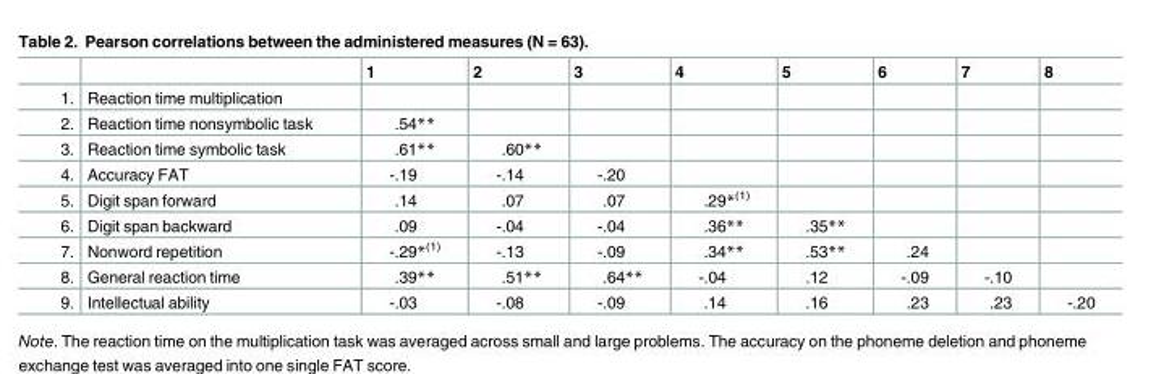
<table><thead><tr><td></td><td></td><td>1</td><td>2</td><td>3</td><td>4</td><td>5</td><td>6</td><td>7</td><td>8</td></tr></thead><tbody><tr><td>1.</td><td>Reaction time multiplication</td><td></td><td></td><td></td><td></td><td></td><td></td><td></td><td></td></tr><tr><td>2.</td><td>Reaction time nonsymbolic task</td><td>.54**</td><td></td><td></td><td></td><td></td><td></td><td></td><td></td></tr><tr><td>3.</td><td>Reaction time symbolic task</td><td>.61**</td><td>.60**</td><td></td><td></td><td></td><td></td><td></td><td></td></tr><tr><td>4.</td><td>Accuracy FAT</td><td>-.19</td><td>-.14</td><td>-.20</td><td></td><td></td><td></td><td></td><td></td></tr><tr><td>5.</td><td>Digit span forward</td><td>.14</td><td>.07</td><td>.07</td><td>.29*<sup>(1)</sup></td><td></td><td></td><td></td><td></td></tr><tr><td>6.</td><td>Digit span backward</td><td>.09</td><td>-.04</td><td>-.04</td><td>.36**</td><td>.35**</td><td></td><td></td><td></td></tr><tr><td>7.</td><td>Nonword repetition</td><td>-.29*<sup>(1)</sup></td><td>-.13</td><td>-.09</td><td>.34**</td><td>.53**</td><td>.24</td><td></td><td></td></tr><tr><td>8.</td><td>General reaction time</td><td>.39**</td><td>.51**</td><td>.64**</td><td>-.04</td><td>.12</td><td>-.09</td><td>-.10</td><td></td></tr><tr><td>9.</td><td>Intellectual ability</td><td>-.03</td><td>-.08</td><td>-.09</td><td>.14</td><td>.16</td><td>.23</td><td>.23</td><td>-.20</td></tr></tbody></table>